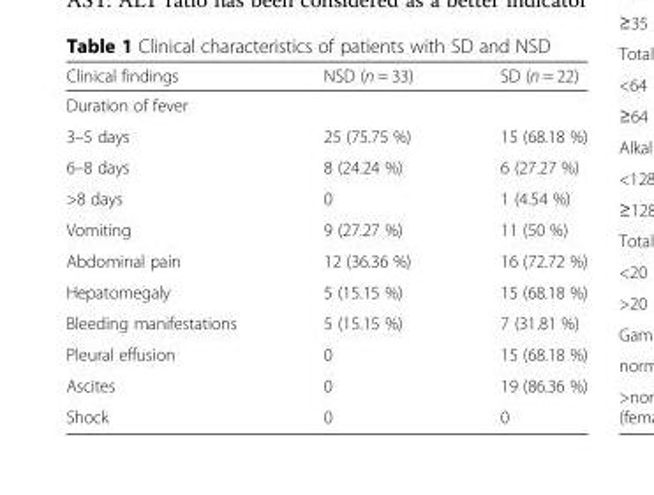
<table><thead><tr><td>Clinical findings</td><td>NSD (n = 33)</td><td>SD (n = 22)</td></tr></thead><tbody><tr><td colspan="3">Duration of fever</td></tr><tr><td>3–5 days</td><td>25 (75.75 %)</td><td>15 (68.18 %)</td></tr><tr><td>6–8 days</td><td>8 (24.24 %)</td><td>6 (27.27 %)</td></tr><tr><td>&gt;8 days</td><td>0</td><td>1 (4.54 %)</td></tr><tr><td>Vomiting</td><td>9 (27.27 %)</td><td>11 (50 %)</td></tr><tr><td>Abdominal pain</td><td>12 (36.36 %)</td><td>16 (72.72 %)</td></tr><tr><td>Hepatomegaly</td><td>5 (15.15 %)</td><td>15 (68.18 %)</td></tr><tr><td>Bleeding manifestations</td><td>5 (15.15 %)</td><td>7 (31.81 %)</td></tr><tr><td>Pleural effusion</td><td>0</td><td>15 (68.18 %)</td></tr><tr><td>Ascites</td><td>0</td><td>19 (86.36 %)</td></tr><tr><td>Shock</td><td>0</td><td>0</td></tr></tbody></table>